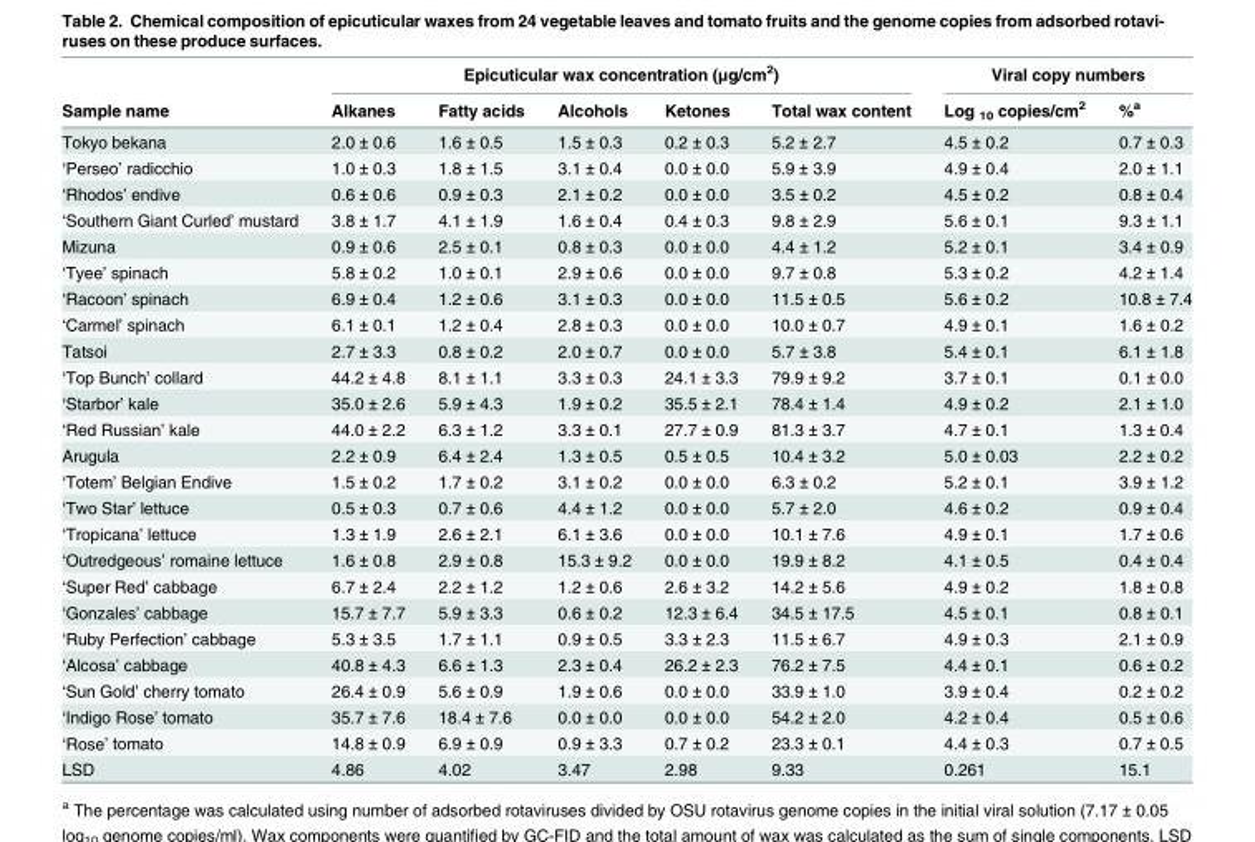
<table><thead><tr><td rowspan="2">Sample name</td><td colspan="5">Epicuticular wax concentration (μg/cm<sup>2</sup>)</td><td colspan="2">Viral copy numbers</td></tr><tr><td>Alkanes</td><td>Fatty acids</td><td>Alcohols</td><td>Ketones</td><td>Total wax content</td><td>Log <sub>10</sub> copies/cm<sup>2</sup></td><td>%<sup>a</sup></td></tr></thead><tbody><tr><td>Tokyo bekana</td><td>2.0 ± 0.6</td><td>1.6 ± 0.5</td><td>1.5 ± 0.3</td><td>0.2 ± 0.3</td><td>5.2 ± 2.7</td><td>4.5 ± 0.2</td><td>0.7 ± 0.3</td></tr><tr><td>‘Perseo’ radicchio</td><td>1.0 ± 0.3</td><td>1.8 ± 1.5</td><td>3.1 ± 0.4</td><td>0.0 ± 0.0</td><td>5.9 ± 3.9</td><td>4.9 ± 0.4</td><td>2.0 ± 1.1</td></tr><tr><td>‘Rhodos’ endive</td><td>0.6 ± 0.6</td><td>0.9 ± 0.3</td><td>2.1 ± 0.2</td><td>0.0 ± 0.0</td><td>3.5 ± 0.2</td><td>4.5 ± 0.2</td><td>0.8 ± 0.4</td></tr><tr><td>‘Southern Giant Curled’ mustard</td><td>3.8 ± 1.7</td><td>4.1 ± 1.9</td><td>1.6 ± 0.4</td><td>0.4 ± 0.3</td><td>9.8 ± 2.9</td><td>5.6 ± 0.1</td><td>9.3 ± 1.1</td></tr><tr><td>Mizuna</td><td>0.9 ± 0.6</td><td>2.5 ± 0.1</td><td>0.8 ± 0.3</td><td>0.0 ± 0.0</td><td>4.4 ± 1.2</td><td>5.2 ± 0.1</td><td>3.4 ± 0.9</td></tr><tr><td>‘Tyee’ spinach</td><td>5.8 ± 0.2</td><td>1.0 ± 0.1</td><td>2.9 ± 0.6</td><td>0.0 ± 0.0</td><td>9.7 ± 0.8</td><td>5.3 ± 0.2</td><td>4.2 ± 1.4</td></tr><tr><td>‘Racoon’ spinach</td><td>6.9 ± 0.4</td><td>1.2 ± 0.6</td><td>3.1 ± 0.3</td><td>0.0 ± 0.0</td><td>11.5 ± 0.5</td><td>5.6 ± 0.2</td><td>10.8 ± 7.4</td></tr><tr><td>‘Carmel’ spinach</td><td>6.1 ± 0.1</td><td>1.2 ± 0.4</td><td>2.8 ± 0.3</td><td>0.0 ± 0.0</td><td>10.0 ± 0.7</td><td>4.9 ± 0.1</td><td>1.6 ± 0.2</td></tr><tr><td>Tatsoi</td><td>2.7 ± 3.3</td><td>0.8 ± 0.2</td><td>2.0 ± 0.7</td><td>0.0 ± 0.0</td><td>5.7 ± 3.8</td><td>5.4 ± 0.1</td><td>6.1 ± 1.8</td></tr><tr><td>‘Top Bunch’ collard</td><td>44.2 ± 4.8</td><td>8.1 ± 1.1</td><td>3.3 ± 0.3</td><td>24.1 ± 3.3</td><td>79.9 ± 9.2</td><td>3.7 ± 0.1</td><td>0.1 ± 0.0</td></tr><tr><td>‘Starbor’ kale</td><td>35.0 ± 2.6</td><td>5.9 ± 4.3</td><td>1.9 ± 0.2</td><td>35.5 ± 2.1</td><td>78.4 ± 1.4</td><td>4.9 ± 0.2</td><td>2.1 ± 1.0</td></tr><tr><td>‘Red Russian’ kale</td><td>44.0 ± 2.2</td><td>6.3 ± 1.2</td><td>3.3 ± 0.1</td><td>27.7 ± 0.9</td><td>81.3 ± 3.7</td><td>4.7 ± 0.1</td><td>1.3 ± 0.4</td></tr><tr><td>Arugula</td><td>2.2 ± 0.9</td><td>6.4 ± 2.4</td><td>1.3 ± 0.5</td><td>0.5 ± 0.5</td><td>10.4 ± 3.2</td><td>5.0 ± 0.03</td><td>2.2 ± 0.2</td></tr><tr><td>‘Totem’ Belgian Endive</td><td>1.5 ± 0.2</td><td>1.7 ± 0.2</td><td>3.1 ± 0.2</td><td>0.0 ± 0.0</td><td>6.3 ± 0.2</td><td>5.2 ± 0.1</td><td>3.9 ± 1.2</td></tr><tr><td>‘Two Star’ lettuce</td><td>0.5 ± 0.3</td><td>0.7 ± 0.6</td><td>4.4 ± 1.2</td><td>0.0 ± 0.0</td><td>5.7 ± 2.0</td><td>4.6 ± 0.2</td><td>0.9 ± 0.4</td></tr><tr><td>‘Tropicana’ lettuce</td><td>1.3 ± 1.9</td><td>2.6 ± 2.1</td><td>6.1 ± 3.6</td><td>0.0 ± 0.0</td><td>10.1 ± 7.6</td><td>4.9 ± 0.1</td><td>1.7 ± 0.6</td></tr><tr><td>‘Outredgeous’ romaine lettuce</td><td>1.6 ± 0.8</td><td>2.9 ± 0.8</td><td>15.3 ± 9.2</td><td>0.0 ± 0.0</td><td>19.9 ± 8.2</td><td>4.1 ± 0.5</td><td>0.4 ± 0.4</td></tr><tr><td>‘Super Red’ cabbage</td><td>6.7 ± 2.4</td><td>2.2 ± 1.2</td><td>1.2 ± 0.6</td><td>2.6 ± 3.2</td><td>14.2 ± 5.6</td><td>4.9 ± 0.2</td><td>1.8 ± 0.8</td></tr><tr><td>‘Gonzales’ cabbage</td><td>15.7 ± 7.7</td><td>5.9 ± 3.3</td><td>0.6 ± 0.2</td><td>12.3 ± 6.4</td><td>34.5 ± 17.5</td><td>4.5 ± 0.1</td><td>0.8 ± 0.1</td></tr><tr><td>‘Ruby Perfection’ cabbage</td><td>5.3 ± 3.5</td><td>1.7 ± 1.1</td><td>0.9 ± 0.5</td><td>3.3 ± 2.3</td><td>11.5 ± 6.7</td><td>4.9 ± 0.3</td><td>2.1 ± 0.9</td></tr><tr><td>‘Alcosa’ cabbage</td><td>40.8 ± 4.3</td><td>6.6 ± 1.3</td><td>2.3 ± 0.4</td><td>26.2 ± 2.3</td><td>76.2 ± 7.5</td><td>4.4 ± 0.1</td><td>0.6 ± 0.2</td></tr><tr><td>‘Sun Gold’ cherry tomato</td><td>26.4 ± 0.9</td><td>5.6 ± 0.9</td><td>1.9 ± 0.6</td><td>0.0 ± 0.0</td><td>33.9 ± 1.0</td><td>3.9 ± 0.4</td><td>0.2 ± 0.2</td></tr><tr><td>‘Indigo Rose’ tomato</td><td>35.7 ± 7.6</td><td>18.4 ± 7.6</td><td>0.0 ± 0.0</td><td>0.0 ± 0.0</td><td>54.2 ± 2.0</td><td>4.2 ± 0.4</td><td>0.5 ± 0.6</td></tr><tr><td>‘Rose’ tomato</td><td>14.8 ± 0.9</td><td>6.9 ± 0.9</td><td>0.9 ± 3.3</td><td>0.7 ± 0.2</td><td>23.3 ± 0.1</td><td>4.4 ± 0.3</td><td>0.7 ± 0.5</td></tr><tr><td>LSD</td><td>4.86</td><td>4.02</td><td>3.47</td><td>2.98</td><td>9.33</td><td>0.261</td><td>15.1</td></tr></tbody></table>